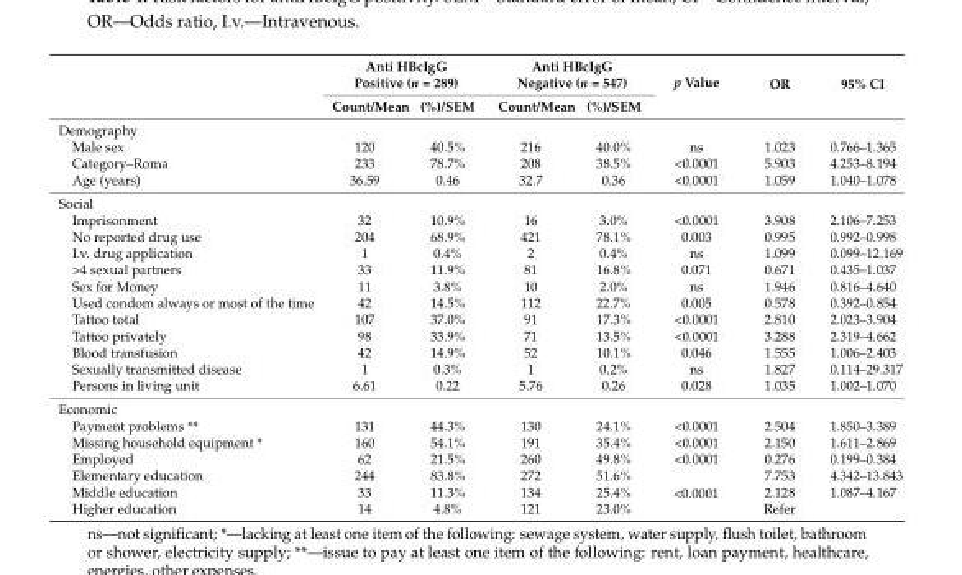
<table><thead><tr><td rowspan="2"></td><td colspan="2">Anti HBcIgG Positive (n = 289)</td><td colspan="2">Anti HBcIgG Negative (n = 547)</td><td rowspan="2">p Value</td><td rowspan="2">OR</td><td rowspan="2">95% CI</td></tr><tr><td>Count/Mean</td><td>(%)/SEM</td><td>Count/Mean</td><td>(%)/SEM</td></tr></thead><tbody><tr><td colspan="8">Demography</td></tr><tr><td>Male sex</td><td>120</td><td>40.5%</td><td>216</td><td>40.0%</td><td>ns</td><td>1.023</td><td>0.766–1.365</td></tr><tr><td>Category–Roma</td><td>233</td><td>78.7%</td><td>208</td><td>38.5%</td><td>&lt;0.0001</td><td>5.903</td><td>4.253–8.194</td></tr><tr><td>Age (years)</td><td>36.59</td><td>0.46</td><td>32.7</td><td>0.36</td><td>&lt;0.0001</td><td>1.059</td><td>1.040–1.078</td></tr><tr><td colspan="8">Social</td></tr><tr><td>Imprisonment</td><td>32</td><td>10.9%</td><td>16</td><td>3.0%</td><td>&lt;0.0001</td><td>3.908</td><td>2.106–7.253</td></tr><tr><td>No reported drug use</td><td>204</td><td>68.9%</td><td>421</td><td>78.1%</td><td>0.003</td><td>0.995</td><td>0.992–0.998</td></tr><tr><td>I.v. drug application</td><td>1</td><td>0.4%</td><td>2</td><td>0.4%</td><td>ns</td><td>1.099</td><td>0.099–12.169</td></tr><tr><td>&gt;4 sexual partners</td><td>33</td><td>11.9%</td><td>81</td><td>16.8%</td><td>0.071</td><td>0.671</td><td>0.435–1.037</td></tr><tr><td>Sex for Money</td><td>11</td><td>3.8%</td><td>10</td><td>2.0%</td><td>ns</td><td>1.946</td><td>0.816–4.640</td></tr><tr><td>Used condom always or most of the time</td><td>42</td><td>14.5%</td><td>112</td><td>22.7%</td><td>0.005</td><td>0.578</td><td>0.392–0.854</td></tr><tr><td>Tattoo total</td><td>107</td><td>37.0%</td><td>91</td><td>17.3%</td><td>&lt;0.0001</td><td>2.810</td><td>2.023–3.904</td></tr><tr><td>Tattoo privately</td><td>98</td><td>33.9%</td><td>71</td><td>13.5%</td><td>&lt;0.0001</td><td>3.288</td><td>2.319–4.662</td></tr><tr><td>Blood transfusion</td><td>42</td><td>14.9%</td><td>52</td><td>10.1%</td><td>0.046</td><td>1.555</td><td>1.006–2.403</td></tr><tr><td>Sexually transmitted disease</td><td>1</td><td>0.3%</td><td>1</td><td>0.2%</td><td>ns</td><td>1.827</td><td>0.114–29.317</td></tr><tr><td>Persons in living unit</td><td>6.61</td><td>0.22</td><td>5.76</td><td>0.26</td><td>0.028</td><td>1.035</td><td>1.002–1.070</td></tr><tr><td colspan="8">Economic</td></tr><tr><td>Payment problems **</td><td>131</td><td>44.3%</td><td>130</td><td>24.1%</td><td>&lt;0.0001</td><td>2.504</td><td>1.850–3.389</td></tr><tr><td>Missing household equipment *</td><td>160</td><td>54.1%</td><td>191</td><td>35.4%</td><td>&lt;0.0001</td><td>2.150</td><td>1.611–2.869</td></tr><tr><td>Employed</td><td>62</td><td>21.5%</td><td>260</td><td>49.8%</td><td>&lt;0.0001</td><td>0.276</td><td>0.199–0.384</td></tr><tr><td>Elementary education</td><td>244</td><td>83.8%</td><td>272</td><td>51.6%</td><td rowspan="3">&lt;0.0001</td><td>7.753</td><td>4.342–13.843</td></tr><tr><td>Middle education</td><td>33</td><td>11.3%</td><td>134</td><td>25.4%</td><td>2.128</td><td>1.087–4.167</td></tr><tr><td>Higher education</td><td>14</td><td>4.8%</td><td>121</td><td>23.0%</td><td>Refer</td><td></td></tr></tbody></table>